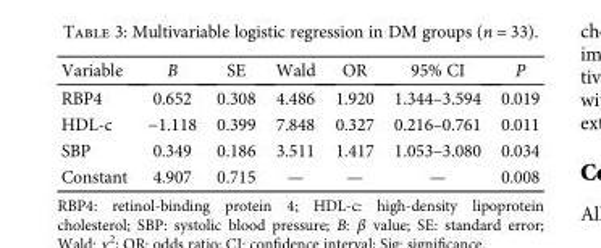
<table><thead><tr><td>Variable</td><td>B</td><td>SE</td><td>Wald</td><td>OR</td><td>95% CI</td><td>P</td></tr></thead><tbody><tr><td>RBP4</td><td>0.652</td><td>0.308</td><td>4.486</td><td>1.920</td><td>1.344–3.594</td><td>0.019</td></tr><tr><td>HDL-c</td><td>−1.118</td><td>0.399</td><td>7.848</td><td>0.327</td><td>0.216–0.761</td><td>0.011</td></tr><tr><td>SBP</td><td>0.349</td><td>0.186</td><td>3.511</td><td>1.417</td><td>1.053–3.080</td><td>0.034</td></tr><tr><td>Constant</td><td>4.907</td><td>0.715</td><td>—</td><td>—</td><td>—</td><td>0.008</td></tr></tbody></table>